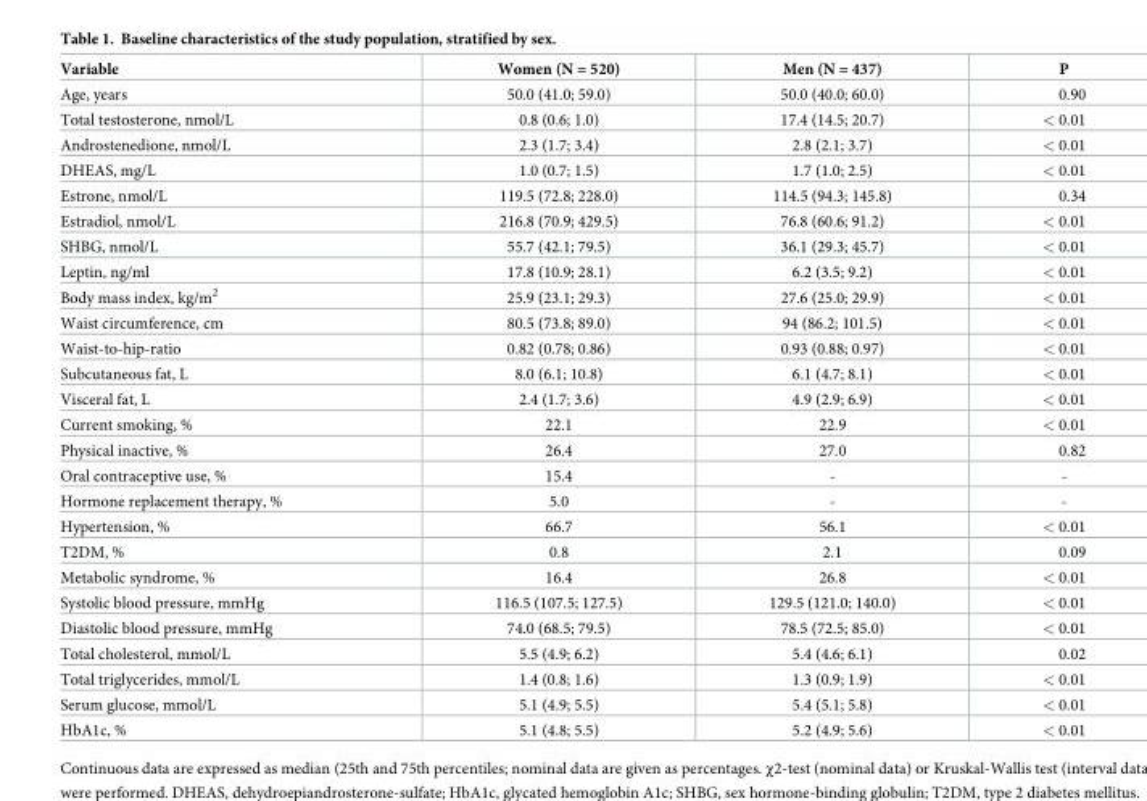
<table><thead><tr><td>Variable</td><td>Women (N = 520)</td><td>Men (N = 437)</td><td>P</td></tr></thead><tbody><tr><td>Age, years</td><td>50.0 (41.0; 59.0)</td><td>50.0 (40.0; 60.0)</td><td>0.90</td></tr><tr><td>Total testosterone, nmol/L</td><td>0.8 (0.6; 1.0)</td><td>17.4 (14.5; 20.7)</td><td>&lt; 0.01</td></tr><tr><td>Androstenedione, nmol/L</td><td>2.3 (1.7; 3.4)</td><td>2.8 (2.1; 3.7)</td><td>&lt; 0.01</td></tr><tr><td>DHEAS, mg/L</td><td>1.0 (0.7; 1.5)</td><td>1.7 (1.0; 2.5)</td><td>&lt; 0.01</td></tr><tr><td>Estrone, nmol/L</td><td>119.5 (72.8; 228.0)</td><td>114.5 (94.3; 145.8)</td><td>0.34</td></tr><tr><td>Estradiol, nmol/L</td><td>216.8 (70.9; 429.5)</td><td>76.8 (60.6; 91.2)</td><td>&lt; 0.01</td></tr><tr><td>SHBG, nmol/L</td><td>55.7 (42.1; 79.5)</td><td>36.1 (29.3; 45.7)</td><td>&lt; 0.01</td></tr><tr><td>Leptin, ng/ml</td><td>17.8 (10.9; 28.1)</td><td>6.2 (3.5; 9.2)</td><td>&lt; 0.01</td></tr><tr><td>Body mass index, kg/m<sup>2</sup></td><td>25.9 (23.1; 29.3)</td><td>27.6 (25.0; 29.9)</td><td>&lt; 0.01</td></tr><tr><td>Waist circumference, cm</td><td>80.5 (73.8; 89.0)</td><td>94 (86.2; 101.5)</td><td>&lt; 0.01</td></tr><tr><td>Waist-to-hip-ratio</td><td>0.82 (0.78; 0.86)</td><td>0.93 (0.88; 0.97)</td><td>&lt; 0.01</td></tr><tr><td>Subcutaneous fat, L</td><td>8.0 (6.1; 10.8)</td><td>6.1 (4.7; 8.1)</td><td>&lt; 0.01</td></tr><tr><td>Visceral fat, L</td><td>2.4 (1.7; 3.6)</td><td>4.9 (2.9; 6.9)</td><td>&lt; 0.01</td></tr><tr><td>Current smoking, %</td><td>22.1</td><td>22.9</td><td>&lt; 0.01</td></tr><tr><td>Physical inactive, %</td><td>26.4</td><td>27.0</td><td>0.82</td></tr><tr><td>Oral contraceptive use, %</td><td>15.4</td><td>-</td><td>-</td></tr><tr><td>Hormone replacement therapy, %</td><td>5.0</td><td>-</td><td>-</td></tr><tr><td>Hypertension, %</td><td>66.7</td><td>56.1</td><td>&lt; 0.01</td></tr><tr><td>T2DM, %</td><td>0.8</td><td>2.1</td><td>0.09</td></tr><tr><td>Metabolic syndrome, %</td><td>16.4</td><td>26.8</td><td>&lt; 0.01</td></tr><tr><td>Systolic blood pressure, mmHg</td><td>116.5 (107.5; 127.5)</td><td>129.5 (121.0; 140.0)</td><td>&lt; 0.01</td></tr><tr><td>Diastolic blood pressure, mmHg</td><td>74.0 (68.5; 79.5)</td><td>78.5 (72.5; 85.0)</td><td>&lt; 0.01</td></tr><tr><td>Total cholesterol, mmol/L</td><td>5.5 (4.9; 6.2)</td><td>5.4 (4.6; 6.1)</td><td>0.02</td></tr><tr><td>Total triglycerides, mmol/L</td><td>1.4 (0.8; 1.6)</td><td>1.3 (0.9; 1.9)</td><td>&lt; 0.01</td></tr><tr><td>Serum glucose, mmol/L</td><td>5.1 (4.9; 5.5)</td><td>5.4 (5.1; 5.8)</td><td>&lt; 0.01</td></tr><tr><td>HbA1c, %</td><td>5.1 (4.8; 5.5)</td><td>5.2 (4.9; 5.6)</td><td>&lt; 0.01</td></tr></tbody></table>